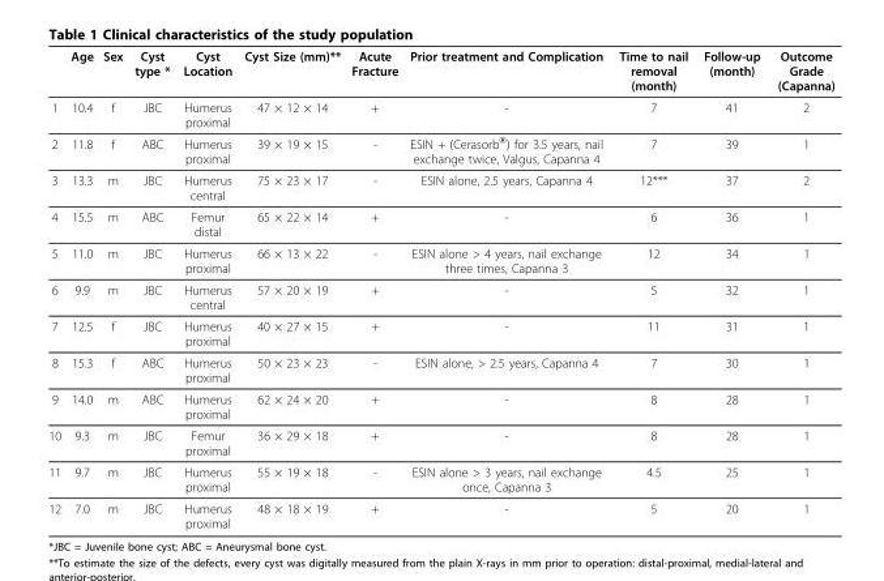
<table><thead><tr><td></td><td>Age</td><td>Sex</td><td>Cyst type *</td><td>Cyst Location</td><td>Cyst Size (mm)**</td><td>Acute Fracture</td><td>Prior treatment and Complication</td><td>Time to nail removal (month)</td><td>Follow-up (month)</td><td>Outcome Grade (Capanna)</td></tr></thead><tbody><tr><td>1</td><td>10.4</td><td>f</td><td>JBC</td><td>Humerus proximal</td><td>47 × 12 × 14</td><td>+</td><td>-</td><td>7</td><td>41</td><td>2</td></tr><tr><td>2</td><td>11.8</td><td>f</td><td>ABC</td><td>Humerus proximal</td><td>39 × 19 × 15</td><td>-</td><td>ESIN + (Cerasorb<sup>®</sup>) for 3.5 years, nail exchange twice, Valgus, Capanna 4</td><td>7</td><td>39</td><td>1</td></tr><tr><td>3</td><td>13.3</td><td>m</td><td>JBC</td><td>Humerus central</td><td>75 × 23 × 17</td><td>-</td><td>ESIN alone, 2.5 years, Capanna 4</td><td>12***</td><td>37</td><td>2</td></tr><tr><td>4</td><td>15.5</td><td>m</td><td>ABC</td><td>Femur distal</td><td>65 × 22 × 14</td><td>+</td><td>-</td><td>6</td><td>36</td><td>1</td></tr><tr><td>5</td><td>11.0</td><td>m</td><td>JBC</td><td>Humerus proximal</td><td>66 × 13 × 22</td><td>-</td><td>ESIN alone &gt; 4 years, nail exchange three times, Capanna 3</td><td>12</td><td>34</td><td>1</td></tr><tr><td>6</td><td>9.9</td><td>m</td><td>JBC</td><td>Humerus central</td><td>57 × 20 × 19</td><td>+</td><td>-</td><td>5</td><td>32</td><td>1</td></tr><tr><td>7</td><td>12.5</td><td>f</td><td>JBC</td><td>Humerus proximal</td><td>40 × 27 × 15</td><td>+</td><td>-</td><td>11</td><td>31</td><td>1</td></tr><tr><td>8</td><td>15.3</td><td>f</td><td>ABC</td><td>Humerus proximal</td><td>50 × 23 × 23</td><td>-</td><td>ESIN alone, &gt; 2.5 years, Capanna 4</td><td>7</td><td>30</td><td>1</td></tr><tr><td>9</td><td>14.0</td><td>m</td><td>ABC</td><td>Humerus proximal</td><td>62 × 24 × 20</td><td>+</td><td>-</td><td>8</td><td>28</td><td>1</td></tr><tr><td>10</td><td>9.3</td><td>m</td><td>JBC</td><td>Femur proximal</td><td>36 × 29 × 18</td><td>+</td><td>-</td><td>8</td><td>28</td><td>1</td></tr><tr><td>11</td><td>9.7</td><td>m</td><td>JBC</td><td>Humerus proximal</td><td>55 × 19 × 18</td><td>-</td><td>ESIN alone &gt; 3 years, nail exchange once, Capanna 3</td><td>4.5</td><td>25</td><td>1</td></tr><tr><td>12</td><td>7.0</td><td>m</td><td>JBC</td><td>Humerus proximal</td><td>48 × 18 × 19</td><td>+</td><td>-</td><td>5</td><td>20</td><td>1</td></tr></tbody></table>